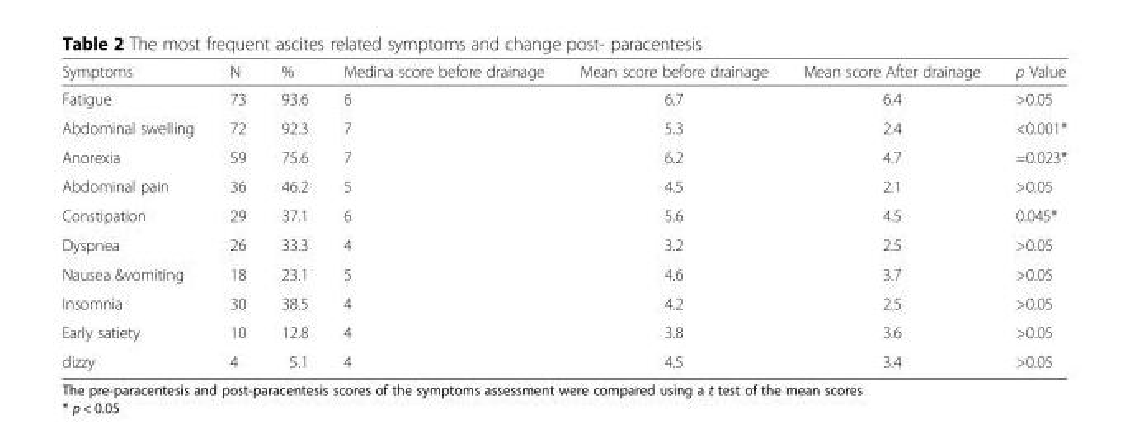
<table><thead><tr><td>Symptoms</td><td>N</td><td>%</td><td>Medina score before drainage</td><td>Mean score before drainage</td><td>Mean score After drainage</td><td>p Value</td></tr></thead><tbody><tr><td>Fatigue</td><td>73</td><td>93.6</td><td>6</td><td>6.7</td><td>6.4</td><td>&gt;0.05</td></tr><tr><td>Abdominal swelling</td><td>72</td><td>92.3</td><td>7</td><td>5.3</td><td>2.4</td><td>&lt;0.001*</td></tr><tr><td>Anorexia</td><td>59</td><td>75.6</td><td>7</td><td>6.2</td><td>4.7</td><td>=0.023*</td></tr><tr><td>Abdominal pain</td><td>36</td><td>46.2</td><td>5</td><td>4.5</td><td>2.1</td><td>&gt;0.05</td></tr><tr><td>Constipation</td><td>29</td><td>37.1</td><td>6</td><td>5.6</td><td>4.5</td><td>0.045*</td></tr><tr><td>Dyspnea</td><td>26</td><td>33.3</td><td>4</td><td>3.2</td><td>2.5</td><td>&gt;0.05</td></tr><tr><td>Nausea &amp;vomiting</td><td>18</td><td>23.1</td><td>5</td><td>4.6</td><td>3.7</td><td>&gt;0.05</td></tr><tr><td>Insomnia</td><td>30</td><td>38.5</td><td>4</td><td>4.2</td><td>2.5</td><td>&gt;0.05</td></tr><tr><td>Early satiety</td><td>10</td><td>12.8</td><td>4</td><td>3.8</td><td>3.6</td><td>&gt;0.05</td></tr><tr><td>dizzy</td><td>4</td><td>5.1</td><td>4</td><td>4.5</td><td>3.4</td><td>&gt;0.05</td></tr></tbody></table>